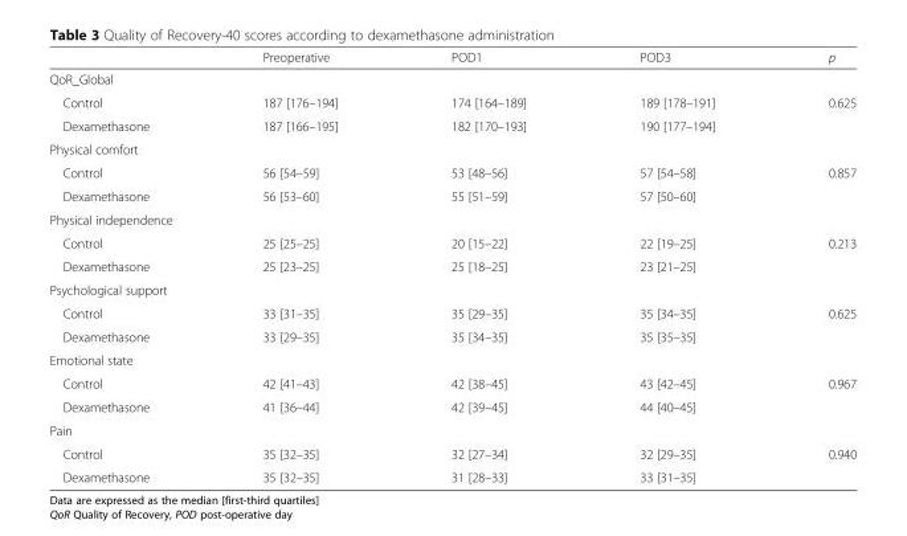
<table><thead><tr><td></td><td>Preoperative</td><td>POD1</td><td>POD3</td><td>p</td></tr></thead><tbody><tr><td colspan="5">QoR_Global</td></tr><tr><td>Control</td><td>187 [176–194]</td><td>174 [164–189]</td><td>189 [178–191]</td><td rowspan="2">0.625</td></tr><tr><td>Dexamethasone</td><td>187 [166–195]</td><td>182 [170–193]</td><td>190 [177–194]</td></tr><tr><td colspan="5">Physical comfort</td></tr><tr><td>Control</td><td>56 [54–59]</td><td>53 [48–56]</td><td>57 [54–58]</td><td rowspan="2">0.857</td></tr><tr><td>Dexamethasone</td><td>56 [53–60]</td><td>55 [51–59]</td><td>57 [50–60]</td></tr><tr><td colspan="5">Physical independence</td></tr><tr><td>Control</td><td>25 [25–25]</td><td>20 [15–22]</td><td>22 [19–25]</td><td rowspan="2">0.213</td></tr><tr><td>Dexamethasone</td><td>25 [23–25]</td><td>25 [18–25]</td><td>23 [21–25]</td></tr><tr><td colspan="5">Psychological support</td></tr><tr><td>Control</td><td>33 [31–35]</td><td>35 [29–35]</td><td>35 [34–35]</td><td rowspan="2">0.625</td></tr><tr><td>Dexamethasone</td><td>33 [29–35]</td><td>35 [34–35]</td><td>35 [35–35]</td></tr><tr><td colspan="5">Emotional state</td></tr><tr><td>Control</td><td>42 [41–43]</td><td>42 [38–45]</td><td>43 [42–45]</td><td rowspan="2">0.967</td></tr><tr><td>Dexamethasone</td><td>41 [36–44]</td><td>42 [39–45]</td><td>44 [40–45]</td></tr><tr><td colspan="5">Pain</td></tr><tr><td>Control</td><td>35 [32–35]</td><td>32 [27–34]</td><td>32 [29–35]</td><td rowspan="2">0.940</td></tr><tr><td>Dexamethasone</td><td>35 [32–35]</td><td>31 [28–33]</td><td>33 [31–35]</td></tr></tbody></table>